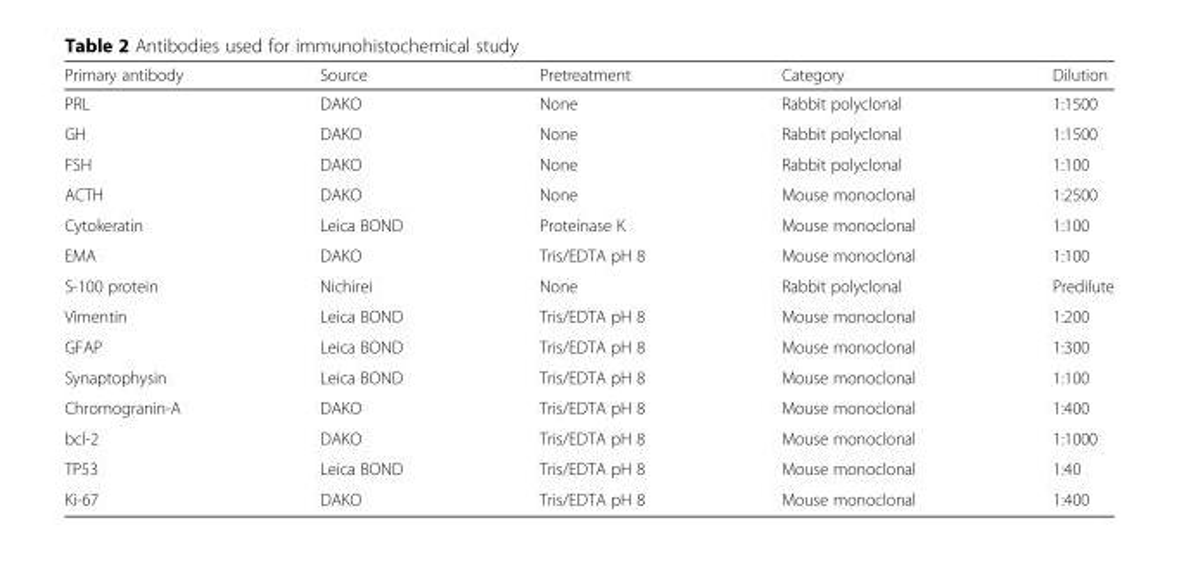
<table><thead><tr><td>Primary antibody</td><td>Source</td><td>Pretreatment</td><td>Category</td><td>Dilution</td></tr></thead><tbody><tr><td>PRL</td><td>DAKO</td><td>None</td><td>Rabbit polyclonal</td><td>1:1500</td></tr><tr><td>GH</td><td>DAKO</td><td>None</td><td>Rabbit polyclonal</td><td>1:1500</td></tr><tr><td>FSH</td><td>DAKO</td><td>None</td><td>Rabbit polyclonal</td><td>1:100</td></tr><tr><td>ACTH</td><td>DAKO</td><td>None</td><td>Mouse monoclonal</td><td>1:2500</td></tr><tr><td>Cytokeratin</td><td>Leica BOND</td><td>Proteinase K</td><td>Mouse monoclonal</td><td>1:100</td></tr><tr><td>EMA</td><td>DAKO</td><td>Tris/EDTA pH 8</td><td>Mouse monoclonal</td><td>1:100</td></tr><tr><td>S-100 protein</td><td>Nichirei</td><td>None</td><td>Rabbit polyclonal</td><td>Predilute</td></tr><tr><td>Vimentin</td><td>Leica BOND</td><td>Tris/EDTA pH 8</td><td>Mouse monoclonal</td><td>1:200</td></tr><tr><td>GFAP</td><td>Leica BOND</td><td>Tris/EDTA pH 8</td><td>Mouse monoclonal</td><td>1:300</td></tr><tr><td>Synaptophysin</td><td>Leica BOND</td><td>Tris/EDTA pH 8</td><td>Mouse monoclonal</td><td>1:100</td></tr><tr><td>Chromogranin-A</td><td>DAKO</td><td>Tris/EDTA pH 8</td><td>Mouse monoclonal</td><td>1:400</td></tr><tr><td>bcl-2</td><td>DAKO</td><td>Tris/EDTA pH 8</td><td>Mouse monoclonal</td><td>1:1000</td></tr><tr><td>TP53</td><td>Leica BOND</td><td>Tris/EDTA pH 8</td><td>Mouse monoclonal</td><td>1:40</td></tr><tr><td>Ki-67</td><td>DAKO</td><td>Tris/EDTA pH 8</td><td>Mouse monoclonal</td><td>1:400</td></tr></tbody></table>